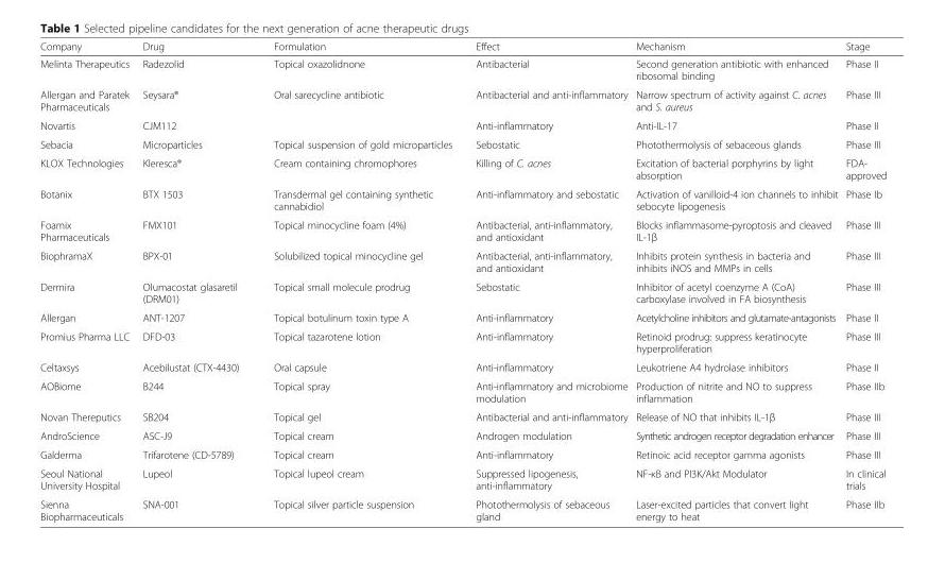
<table><thead><tr><td>Company</td><td>Drug</td><td>Formulation</td><td>Effect</td><td>Mechanism</td><td>Stage</td></tr></thead><tbody><tr><td>Melinta Therapeutics</td><td>Radezolid</td><td>Topical oxazolidnone</td><td>Antibacterial</td><td>Second generation antibiotic with enhanced ribosomal binding</td><td>Phase II</td></tr><tr><td>Allergan and Paratek Pharmaceuticals</td><td>Seysara®</td><td>Oral sarecycline antibiotic</td><td>Antibacterial and anti-inflammatory</td><td>Narrow spectrum of activity against C. acnes and S. aureus</td><td>Phase III</td></tr><tr><td>Novartis</td><td>CJM112</td><td></td><td>Anti-inflammatory</td><td>Anti-IL-17</td><td>Phase II</td></tr><tr><td>Sebacia</td><td>Microparticles</td><td>Topical suspension of gold microparticles</td><td>Sebostatic</td><td>Photothermolysis of sebaceous glands</td><td>Phase III</td></tr><tr><td>KLOX Technologies</td><td>Kleresca®</td><td>Cream containing chromophores</td><td>Killing of C. acnes</td><td>Excitation of bacterial porphyrins by light absorption</td><td>FDA- approved</td></tr><tr><td>Botanix</td><td>BTX 1503</td><td>Transdermal gel containing synthetic cannabidiol</td><td>Anti-inflammatory and sebostatic</td><td>Activation of vanilloid-4 ion channels to inhibit sebocyte lipogenesis</td><td>Phase Ib</td></tr><tr><td>Foamix Pharmaceuticals</td><td>FMX101</td><td>Topical minocycline foam (4%)</td><td>Antibacterial, anti-inflammatory, and antioxidant</td><td>Blocks inflammasome-pyroptosis and cleaved IL-1β</td><td>Phase III</td></tr><tr><td>BiophramaX</td><td>BPX-01</td><td>Solubilized topical minocycline gel</td><td>Antibacterial, anti-inflammatory, and antioxidant</td><td>Inhibits protein synthesis in bacteria and inhibits iNOS and MMPs in cells</td><td>Phase III</td></tr><tr><td>Dermira</td><td>Olumacostat glasaretil (DRM01)</td><td>Topical small molecule prodrug</td><td>Sebostatic</td><td>Inhibitor of acetyl coenzyme A (CoA) carboxylase involved in FA biosynthesis</td><td>Phase III</td></tr><tr><td>Allergan</td><td>ANT-1207</td><td>Topical botulinum toxin type A</td><td>Anti-inflammatory</td><td>Acetylcholine inhibitors and glutamate-antagonists</td><td>Phase II</td></tr><tr><td>Promius Pharma LLC</td><td>DFD-03</td><td>Topical tazarotene lotion</td><td>Anti-inflammatory</td><td>Retinoid prodrug: suppress keratinocyte hyperproliferation</td><td>Phase III</td></tr><tr><td>Celtaxsys</td><td>Acebilustat (CTX-4430)</td><td>Oral capsule</td><td>Anti-inflammatory</td><td>Leukotriene A4 hydrolase inhibitors</td><td>Phase II</td></tr><tr><td>AOBiome</td><td>B244</td><td>Topical spray</td><td>Anti-inflammatory and microbiome modulation</td><td>Production of nitrite and NO to suppress inflammation</td><td>Phase IIb</td></tr><tr><td>Novan Thereputics</td><td>SB204</td><td>Topical gel</td><td>Antibacterial and anti-inflammatory</td><td>Release of NO that inhibits IL-1β</td><td>Phase III</td></tr><tr><td>AndroScience</td><td>ASC-J9</td><td>Topical cream</td><td>Androgen modulation</td><td>Synthetic androgen receptor degradation enhancer</td><td>Phase III</td></tr><tr><td>Galderma</td><td>Trifarotene (CD-5789)</td><td>Topical cream</td><td>Anti-inflammatory</td><td>Retinoic acid receptor gamma agonists</td><td>Phase III</td></tr><tr><td>Seoul National University Hospital</td><td>Lupeol</td><td>Topical lupeol cream</td><td>Suppressed lipogenesis, anti-inflammatory</td><td>NF-κB and PI3K/Akt Modulator</td><td>In clinical trials</td></tr><tr><td>Sienna Biopharmaceuticals</td><td>SNA-001</td><td>Topical silver particle suspension</td><td>Photothermolysis of sebaceous gland</td><td>Laser-excited particles that convert light energy to heat</td><td>Phase IIb</td></tr></tbody></table>